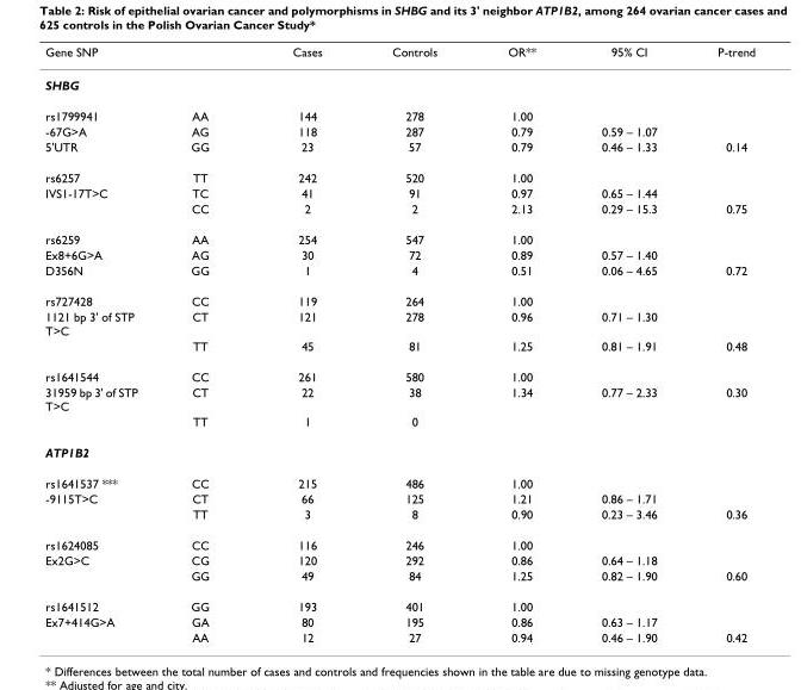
<table><thead><tr><td>Gene SNP</td><td></td><td>Cases</td><td>Controls</td><td>OR**</td><td>95% CI</td><td>P-trend</td></tr></thead><tbody><tr><td colspan="7">SHBG</td></tr><tr><td>rs1799941</td><td>AA</td><td>144</td><td>278</td><td>1.00</td><td></td><td></td></tr><tr><td>-67G&gt;A</td><td>AG</td><td>118</td><td>287</td><td>0.79</td><td>0.59 – 1.07</td><td></td></tr><tr><td>5&#x27;UTR</td><td>GG</td><td>23</td><td>57</td><td>0.79</td><td>0.46 – 1.33</td><td>0.14</td></tr><tr><td>rs6257</td><td>TT</td><td>242</td><td>520</td><td>1.00</td><td></td><td></td></tr><tr><td rowspan="2">IVS1-17T&gt;C</td><td>TC</td><td>41</td><td>91</td><td>0.97</td><td>0.65 – 1.44</td><td></td></tr><tr><td>CC</td><td>2</td><td>2</td><td>2.13</td><td>0.29 – 15.3</td><td>0.75</td></tr><tr><td>rs6259</td><td>AA</td><td>254</td><td>547</td><td>1.00</td><td></td><td></td></tr><tr><td>Ex8+6G&gt;A</td><td>AG</td><td>30</td><td>72</td><td>0.89</td><td>0.57 – 1.40</td><td></td></tr><tr><td>D356N</td><td>GG</td><td>1</td><td>4</td><td>0.51</td><td>0.06 – 4.65</td><td>0.72</td></tr><tr><td>rs727428</td><td>CC</td><td>119</td><td>264</td><td>1.00</td><td></td><td></td></tr><tr><td rowspan="2">1121 bp 3&#x27; of STP T&gt;C</td><td>CT</td><td>121</td><td>278</td><td>0.96</td><td>0.71 – 1.30</td><td></td></tr><tr><td>TT</td><td>45</td><td>81</td><td>1.25</td><td>0.81 – 1.91</td><td>0.48</td></tr><tr><td>rs1641544</td><td>CC</td><td>261</td><td>580</td><td>1.00</td><td></td><td></td></tr><tr><td rowspan="2">31959 bp 3&#x27; of STP T&gt;C</td><td>CT</td><td>22</td><td>38</td><td>1.34</td><td>0.77 – 2.33</td><td>0.30</td></tr><tr><td>TT</td><td>1</td><td>0</td><td></td><td></td><td></td></tr><tr><td colspan="7">ATP1B2</td></tr><tr><td>rs1641537 ***</td><td>CC</td><td>215</td><td>486</td><td>1.00</td><td></td><td></td></tr><tr><td rowspan="2">-9115T&gt;C</td><td>CT</td><td>66</td><td>125</td><td>1.21</td><td>0.86 – 1.71</td><td></td></tr><tr><td>TT</td><td>3</td><td>8</td><td>0.90</td><td>0.23 – 3.46</td><td>0.36</td></tr><tr><td>rs1624085</td><td>CC</td><td>116</td><td>246</td><td>1.00</td><td></td><td></td></tr><tr><td rowspan="2">Ex2G&gt;C</td><td>CG</td><td>120</td><td>292</td><td>0.86</td><td>0.64 – 1.18</td><td></td></tr><tr><td>GG</td><td>49</td><td>84</td><td>1.25</td><td>0.82 – 1.90</td><td>0.60</td></tr><tr><td>rs1641512</td><td>GG</td><td>193</td><td>401</td><td>1.00</td><td></td><td></td></tr><tr><td rowspan="2">Ex7+414G&gt;A</td><td>GA</td><td>80</td><td>195</td><td>0.86</td><td>0.63 – 1.17</td><td></td></tr><tr><td>AA</td><td>12</td><td>27</td><td>0.94</td><td>0.46 – 1.90</td><td>0.42</td></tr></tbody></table>